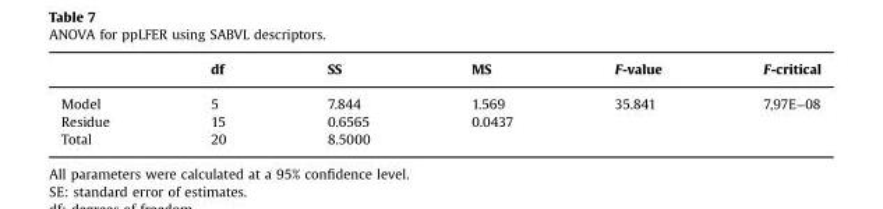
<table><thead><tr><td></td><td>df</td><td>SS</td><td>MS</td><td>F-value</td><td>F-critical</td></tr></thead><tbody><tr><td>Model</td><td>5</td><td>7.844</td><td>1.569</td><td>35.841</td><td>7,97E−08</td></tr><tr><td>Residue</td><td>15</td><td>0.6565</td><td>0.0437</td><td></td><td></td></tr><tr><td>Total</td><td>20</td><td>8.5000</td><td></td><td></td><td></td></tr></tbody></table>